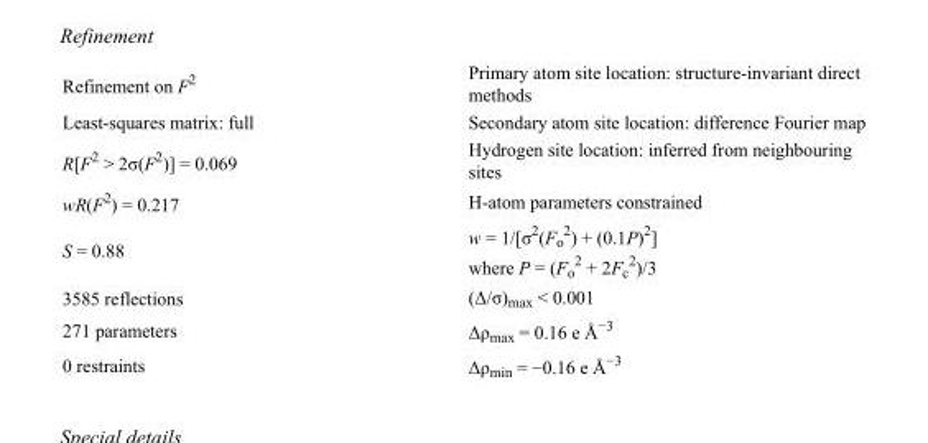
<table><tbody><tr><td>Refinement on F<sup>2</sup></td><td>Primary atom site location: structure-invariant direct methods</td></tr><tr><td>Least-squares matrix: full</td><td>Secondary atom site location: difference Fourier map</td></tr><tr><td>R[F<sup>2</sup> &gt; 2σ(F<sup>2</sup>)] = 0.069</td><td>Hydrogen site location: inferred from neighbouring sites</td></tr><tr><td>wR(F<sup>2</sup>) = 0.217</td><td>H-atom parameters constrained</td></tr><tr><td>S = 0.88</td><td>w = 1/[σ<sup>2</sup>(F<sub>o</sub> <sup>2</sup>) + (0.1P)<sup>2</sup>] where P = (F<sub>o</sub> <sup>2</sup> + 2F<sub>c</sub> <sup>2</sup>)/3</td></tr><tr><td>3585 reflections</td><td>(Δ/σ)<sub>max</sub> &lt; 0.001</td></tr><tr><td>271 parameters</td><td>Δρ<sub>max</sub> = 0.16 e Å<sup>−3</sup></td></tr><tr><td>0 restraints</td><td>Δρ<sub>min</sub> = −0.16 e Å<sup>−3</sup></td></tr></tbody></table>